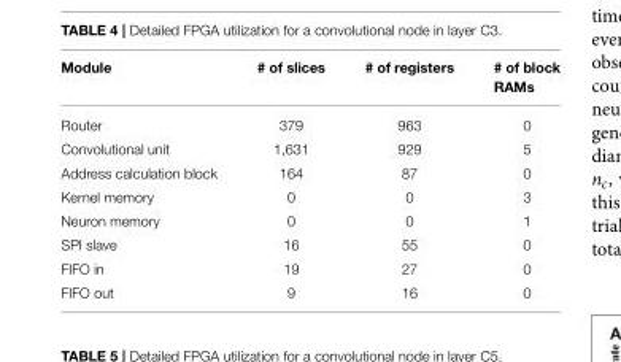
<table><thead><tr><td>Module</td><td># of slices</td><td># of registers</td><td># of block RAMs</td></tr></thead><tbody><tr><td>Router</td><td>379</td><td>963</td><td>0</td></tr><tr><td>Convolutional unit</td><td>1,631</td><td>929</td><td>5</td></tr><tr><td>Address calculation block</td><td>164</td><td>87</td><td>0</td></tr><tr><td>Kernel memory</td><td>0</td><td>0</td><td>3</td></tr><tr><td>Neuron memory</td><td>0</td><td>0</td><td>1</td></tr><tr><td>SPI slave</td><td>16</td><td>55</td><td>0</td></tr><tr><td>FIFO in</td><td>19</td><td>27</td><td>0</td></tr><tr><td>FIFO out</td><td>9</td><td>16</td><td>0</td></tr></tbody></table>